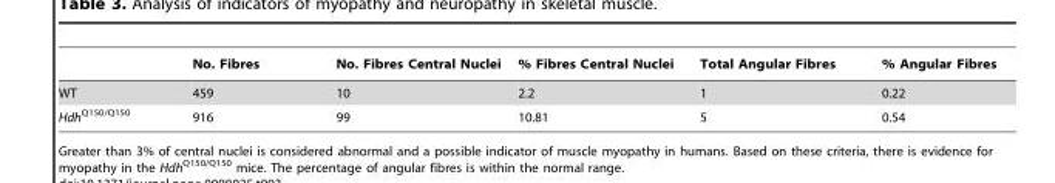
<table><thead><tr><td></td><td>No. Fibres</td><td>No. Fibres Central Nuclei</td><td>% Fibres Central Nuclei</td><td>Total Angular Fibres</td><td>% Angular Fibres</td></tr></thead><tbody><tr><td>WT</td><td>459</td><td>10</td><td>2.2</td><td>1</td><td>0.22</td></tr><tr><td>Hdh<sup>Q150/Q150</sup></td><td>916</td><td>99</td><td>10.81</td><td>5</td><td>0.54</td></tr></tbody></table>